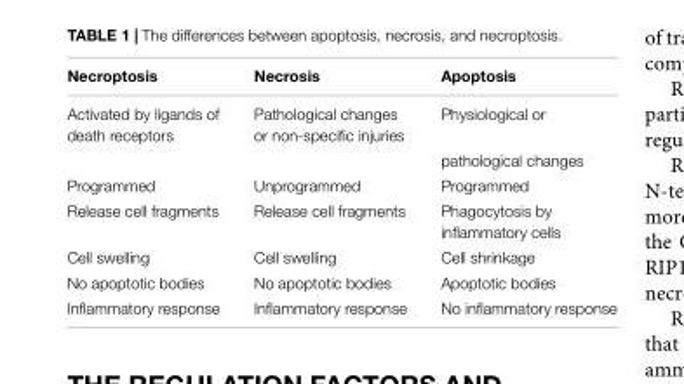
<table><thead><tr><td>Necroptosis</td><td>Necrosis</td><td>Apoptosis</td></tr></thead><tbody><tr><td rowspan="2">Activated by ligands of death receptors</td><td>Pathological changes or non-specific injuries</td><td>Physiological or</td></tr><tr><td></td><td>pathological changes</td></tr><tr><td>Programmed</td><td>Unprogrammed</td><td>Programmed</td></tr><tr><td>Release cell fragments</td><td>Release cell fragments</td><td>Phagocytosis by inflammatory cells</td></tr><tr><td>Cell swelling</td><td>Cell swelling</td><td>Cell shrinkage</td></tr><tr><td>No apoptotic bodies</td><td>No apoptotic bodies</td><td>Apoptotic bodies</td></tr><tr><td>Inflammatory response</td><td>Inflammatory response</td><td>No inflammatory response</td></tr></tbody></table>